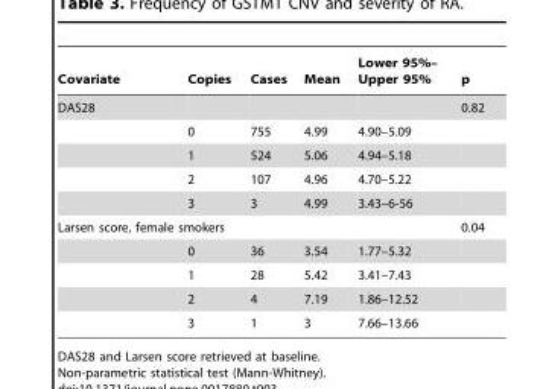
<table><thead><tr><td>Covariate</td><td>Copies</td><td>Cases</td><td>Mean</td><td>Lower 95%– Upper 95%</td><td>p</td></tr></thead><tbody><tr><td rowspan="5">DAS28</td><td></td><td></td><td></td><td></td><td>0.82</td></tr><tr><td>0</td><td>755</td><td>4.99</td><td>4.90–5.09</td><td></td></tr><tr><td>1</td><td>524</td><td>5.06</td><td>4.94–5.18</td><td></td></tr><tr><td>2</td><td>107</td><td>4.96</td><td>4.70–5.22</td><td></td></tr><tr><td>3</td><td>3</td><td>4.99</td><td>3.43–6-56</td><td></td></tr><tr><td colspan="2">Larsen score, female smokers</td><td></td><td></td><td></td><td>0.04</td></tr><tr><td></td><td>0</td><td>36</td><td>3.54</td><td>1.77–5.32</td><td></td></tr><tr><td></td><td>1</td><td>28</td><td>5.42</td><td>3.41–7.43</td><td></td></tr><tr><td></td><td>2</td><td>4</td><td>7.19</td><td>1.86–12.52</td><td></td></tr><tr><td></td><td>3</td><td>1</td><td>3</td><td>7.66–13.66</td><td></td></tr></tbody></table>